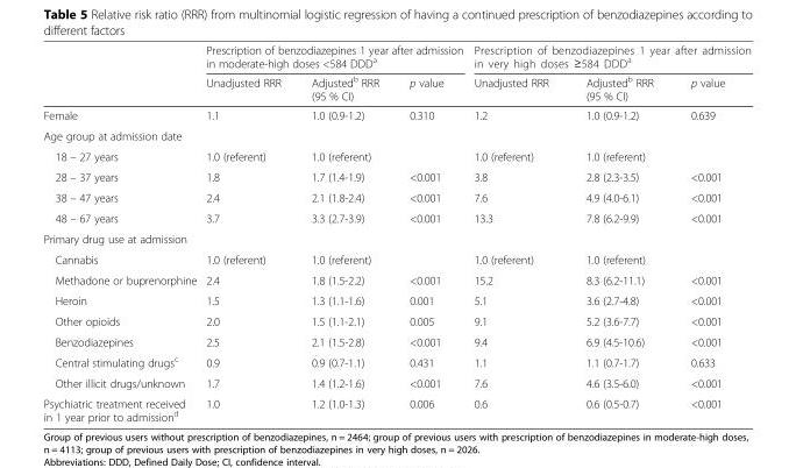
<table><thead><tr><td rowspan="2"></td><td colspan="3">Prescription of benzodiazepines 1 year after admission in moderate-high doses &lt;584 DDD<sup>a</sup></td><td colspan="3">Prescription of benzodiazepines 1 year after admission in very high doses ≥584 DDD<sup>a</sup></td></tr><tr><td>Unadjusted RRR</td><td>Adjusted<sup>b</sup> RRR (95 % CI)</td><td>p value</td><td>Unadjusted RRR</td><td>Adjusted<sup>b</sup> RRR (95 % CI)</td><td>p value</td></tr></thead><tbody><tr><td>Female</td><td>1.1</td><td>1.0 (0.9-1.2)</td><td>0.310</td><td>1.2</td><td>1.0 (0.9-1.2)</td><td>0.639</td></tr><tr><td colspan="7">Age group at admission date</td></tr><tr><td>18 – 27 years</td><td>1.0 (referent)</td><td>1.0 (referent)</td><td></td><td>1.0 (referent)</td><td>1.0 (referent)</td><td></td></tr><tr><td>28 – 37 years</td><td>1.8</td><td>1.7 (1.4-1.9)</td><td>&lt;0.001</td><td>3.8</td><td>2.8 (2.3-3.5)</td><td>&lt;0.001</td></tr><tr><td>38 – 47 years</td><td>2.4</td><td>2.1 (1.8-2.4)</td><td>&lt;0.001</td><td>7.6</td><td>4.9 (4.0-6.1)</td><td>&lt;0.001</td></tr><tr><td>48 – 67 years</td><td>3.7</td><td>3.3 (2.7-3.9)</td><td>&lt;0.001</td><td>13.3</td><td>7.8 (6.2-9.9)</td><td>&lt;0.001</td></tr><tr><td colspan="7">Primary drug use at admission</td></tr><tr><td>Cannabis</td><td>1.0 (referent)</td><td>1.0 (referent)</td><td></td><td>1.0 (referent)</td><td>1.0 (referent)</td><td></td></tr><tr><td>Methadone or buprenorphine</td><td>2.4</td><td>1.8 (1.5-2.2)</td><td>&lt;0.001</td><td>15.2</td><td>8.3 (6.2-11.1)</td><td>&lt;0.001</td></tr><tr><td>Heroin</td><td>1.5</td><td>1.3 (1.1-1.6)</td><td>0.001</td><td>5.1</td><td>3.6 (2.7-4.8)</td><td>&lt;0.001</td></tr><tr><td>Other opioids</td><td>2.0</td><td>1.5 (1.1-2.1)</td><td>0.005</td><td>9.1</td><td>5.2 (3.6-7.7)</td><td>&lt;0.001</td></tr><tr><td>Benzodiazepines</td><td>2.5</td><td>2.1 (1.5-2.8)</td><td>&lt;0.001</td><td>9.4</td><td>6.9 (4.5-10.6)</td><td>&lt;0.001</td></tr><tr><td>Central stimulating drugs<sup>c</sup></td><td>0.9</td><td>0.9 (0.7-1.1)</td><td>0.431</td><td>1.1</td><td>1.1 (0.7-1.7)</td><td>0.633</td></tr><tr><td>Other illicit drugs/unknown</td><td>1.7</td><td>1.4 (1.2-1.6)</td><td>&lt;0.001</td><td>7.6</td><td>4.6 (3.5-6.0)</td><td>&lt;0.001</td></tr><tr><td>Psychiatric treatment received in 1 year prior to admission<sup>d</sup></td><td>1.0</td><td>1.2 (1.0-1.3)</td><td>0.006</td><td>0.6</td><td>0.6 (0.5-0.7)</td><td>&lt;0.001</td></tr></tbody></table>